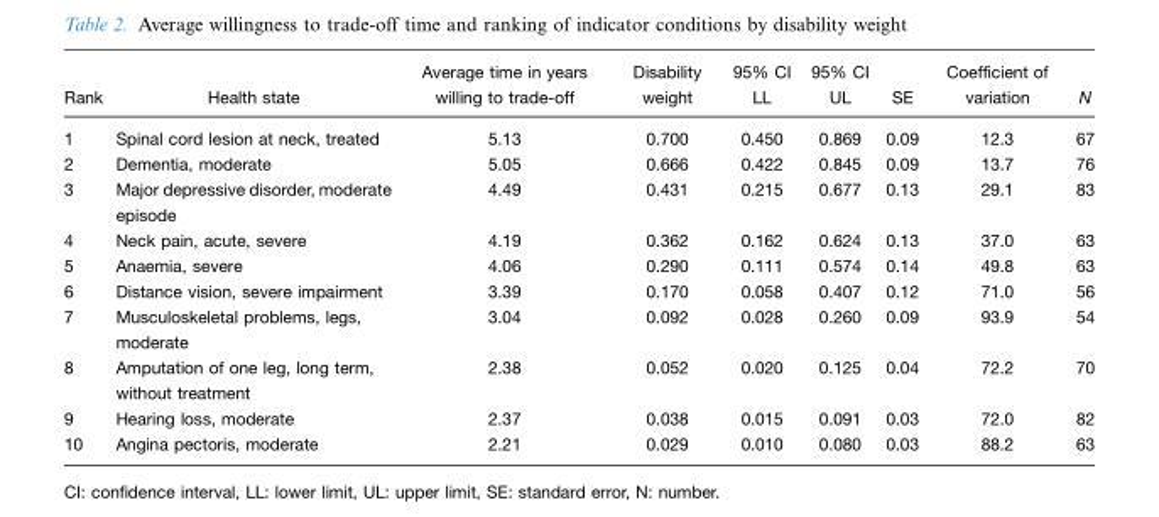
<table><thead><tr><td>Rank</td><td>Health state</td><td>Average time in years willing to trade-off</td><td>Disability weight</td><td>95% CI LL</td><td>95% CI UL</td><td>SE</td><td>Coefficient of variation</td><td>N</td></tr></thead><tbody><tr><td>1</td><td>Spinal cord lesion at neck, treated</td><td>5.13</td><td>0.700</td><td>0.450</td><td>0.869</td><td>0.09</td><td>12.3</td><td>67</td></tr><tr><td>2</td><td>Dementia, moderate</td><td>5.05</td><td>0.666</td><td>0.422</td><td>0.845</td><td>0.09</td><td>13.7</td><td>76</td></tr><tr><td>3</td><td>Major depressive disorder, moderate episode</td><td>4.49</td><td>0.431</td><td>0.215</td><td>0.677</td><td>0.13</td><td>29.1</td><td>83</td></tr><tr><td>4</td><td>Neck pain, acute, severe</td><td>4.19</td><td>0.362</td><td>0.162</td><td>0.624</td><td>0.13</td><td>37.0</td><td>63</td></tr><tr><td>5</td><td>Anaemia, severe</td><td>4.06</td><td>0.290</td><td>0.111</td><td>0.574</td><td>0.14</td><td>49.8</td><td>63</td></tr><tr><td>6</td><td>Distance vision, severe impairment</td><td>3.39</td><td>0.170</td><td>0.058</td><td>0.407</td><td>0.12</td><td>71.0</td><td>56</td></tr><tr><td>7</td><td>Musculoskeletal problems, legs, moderate</td><td>3.04</td><td>0.092</td><td>0.028</td><td>0.260</td><td>0.09</td><td>93.9</td><td>54</td></tr><tr><td>8</td><td>Amputation of one leg, long term, without treatment</td><td>2.38</td><td>0.052</td><td>0.020</td><td>0.125</td><td>0.04</td><td>72.2</td><td>70</td></tr><tr><td>9</td><td>Hearing loss, moderate</td><td>2.37</td><td>0.038</td><td>0.015</td><td>0.091</td><td>0.03</td><td>72.0</td><td>82</td></tr><tr><td>10</td><td>Angina pectoris, moderate</td><td>2.21</td><td>0.029</td><td>0.010</td><td>0.080</td><td>0.03</td><td>88.2</td><td>63</td></tr></tbody></table>